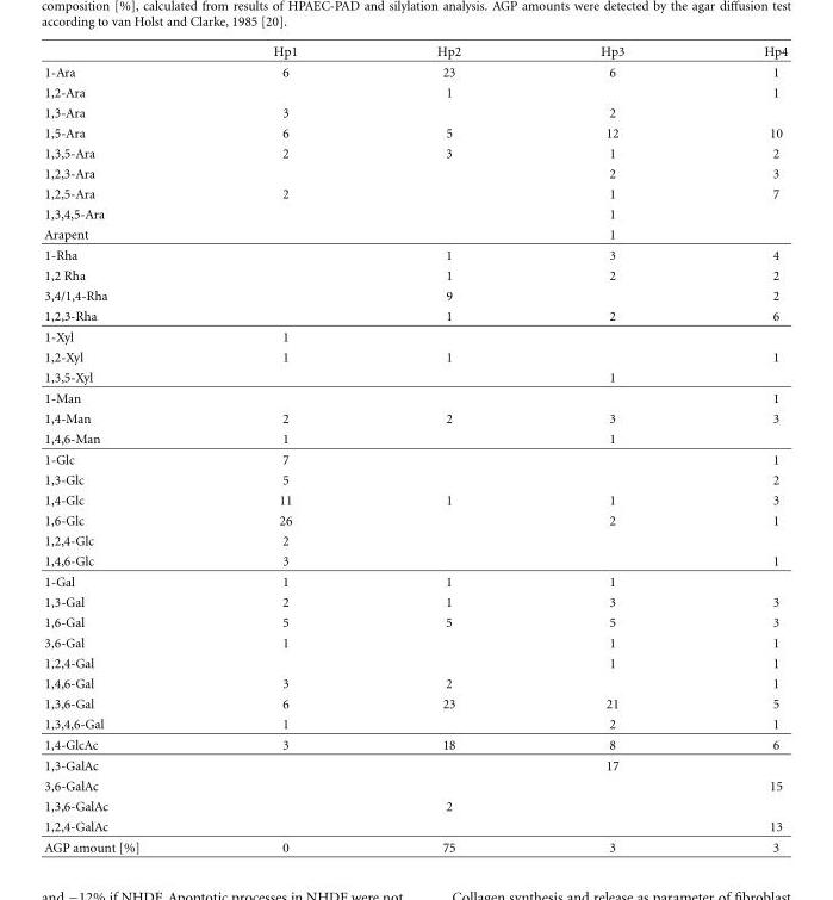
<table><thead><tr><td></td><td>Hp1</td><td>Hp2</td><td>Hp3</td><td>Hp4</td></tr></thead><tbody><tr><td>1-Ara</td><td>6</td><td>23</td><td>6</td><td>1</td></tr><tr><td>1,2-Ara</td><td></td><td>1</td><td></td><td>1</td></tr><tr><td>1,3-Ara</td><td>3</td><td></td><td>2</td><td></td></tr><tr><td>1,5-Ara</td><td>6</td><td>5</td><td>12</td><td>10</td></tr><tr><td>1,3,5-Ara</td><td>2</td><td>3</td><td>1</td><td>2</td></tr><tr><td>1,2,3-Ara</td><td></td><td></td><td>2</td><td>3</td></tr><tr><td>1,2,5-Ara</td><td>2</td><td></td><td>1</td><td>7</td></tr><tr><td>1,3,4,5-Ara</td><td></td><td></td><td>1</td><td></td></tr><tr><td>Arapent</td><td></td><td></td><td>1</td><td></td></tr><tr><td>1-Rha</td><td></td><td>1</td><td>3</td><td>4</td></tr><tr><td>1,2 Rha</td><td></td><td>1</td><td>2</td><td>2</td></tr><tr><td>3,4/1,4-Rha</td><td></td><td>9</td><td></td><td>2</td></tr><tr><td>1,2,3-Rha</td><td></td><td>1</td><td>2</td><td>6</td></tr><tr><td>1-Xyl</td><td>1</td><td></td><td></td><td></td></tr><tr><td>1,2-Xyl</td><td>1</td><td>1</td><td></td><td>1</td></tr><tr><td>1,3,5-Xyl</td><td></td><td></td><td>1</td><td></td></tr><tr><td>1-Man</td><td></td><td></td><td></td><td>1</td></tr><tr><td>1,4-Man</td><td>2</td><td>2</td><td>3</td><td>3</td></tr><tr><td>1,4,6-Man</td><td>1</td><td></td><td>1</td><td></td></tr><tr><td>1-Glc</td><td>7</td><td></td><td></td><td>1</td></tr><tr><td>1,3-Glc</td><td>5</td><td></td><td></td><td>2</td></tr><tr><td>1,4-Glc</td><td>11</td><td>1</td><td>1</td><td>3</td></tr><tr><td>1,6-Glc</td><td>26</td><td></td><td>2</td><td>1</td></tr><tr><td>1,2,4-Glc</td><td>2</td><td></td><td></td><td></td></tr><tr><td>1,4,6-Glc</td><td>3</td><td></td><td></td><td>1</td></tr><tr><td>1-Gal</td><td>1</td><td>1</td><td>1</td><td></td></tr><tr><td>1,3-Gal</td><td>2</td><td>1</td><td>3</td><td>3</td></tr><tr><td>1,6-Gal</td><td>5</td><td>5</td><td>5</td><td>3</td></tr><tr><td>3,6-Gal</td><td>1</td><td></td><td>1</td><td>1</td></tr><tr><td>1,2,4-Gal</td><td></td><td></td><td>1</td><td>1</td></tr><tr><td>1,4,6-Gal</td><td>3</td><td>2</td><td></td><td>1</td></tr><tr><td>1,3,6-Gal</td><td>6</td><td>23</td><td>21</td><td>5</td></tr><tr><td>1,3,4,6-Gal</td><td>1</td><td></td><td>2</td><td>1</td></tr><tr><td>1,4-GlcAc</td><td>3</td><td>18</td><td>8</td><td>6</td></tr><tr><td>1,3-GalAc</td><td></td><td></td><td>17</td><td></td></tr><tr><td>3,6-GalAc</td><td></td><td></td><td></td><td>15</td></tr><tr><td>1,3,6-GalAc</td><td></td><td>2</td><td></td><td></td></tr><tr><td>1,2,4-GalAc</td><td></td><td></td><td></td><td>13</td></tr><tr><td>AGP amount [%]</td><td>0</td><td>75</td><td>3</td><td>3</td></tr></tbody></table>